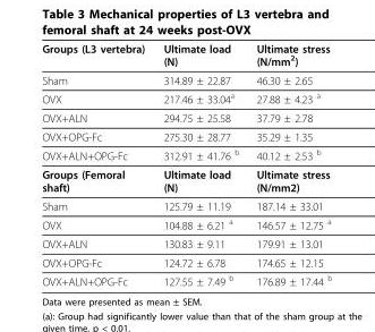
<table><thead><tr><td>Groups (L3 vertebra)</td><td>Ultimate load (N)</td><td>Ultimate stress (N/mm<sup>2</sup>)</td></tr></thead><tbody><tr><td>Sham</td><td>314.89 ± 22.87</td><td>46.30 ± 2.65</td></tr><tr><td>OVX</td><td>217.46 ± 33.04<sup>a</sup></td><td>27.88 ± 4.23 <sup>a</sup></td></tr><tr><td>OVX+ALN</td><td>294.75 ± 25.58</td><td>37.79 ± 2.78</td></tr><tr><td>OVX+OPG-Fc</td><td>275.30 ± 28.77</td><td>35.29 ± 1.35</td></tr><tr><td>OVX+ALN+OPG-Fc</td><td>312.91 ± 41.76 <sup>b</sup></td><td>40.12 ± 2.53 <sup>b</sup></td></tr><tr><td>Groups (Femoral shaft)</td><td>Ultimate load (N)</td><td>Ultimate stress (N/mm2)</td></tr><tr><td>Sham</td><td>125.79 ± 11.19</td><td>187.14 ± 33.01</td></tr><tr><td>OVX</td><td>104.88 ± 6.21 <sup>a</sup></td><td>146.57 ± 12.75 <sup>a</sup></td></tr><tr><td>OVX+ALN</td><td>130.83 ± 9.11</td><td>179.91 ± 13.01</td></tr><tr><td>OVX+OPG-Fc</td><td>124.72 ± 6.78</td><td>174.65 ± 12.15</td></tr><tr><td>OVX+ALN+OPG-Fc</td><td>127.55 ± 7.49 <sup>b</sup></td><td>176.89 ± 17.44 <sup>b</sup></td></tr></tbody></table>